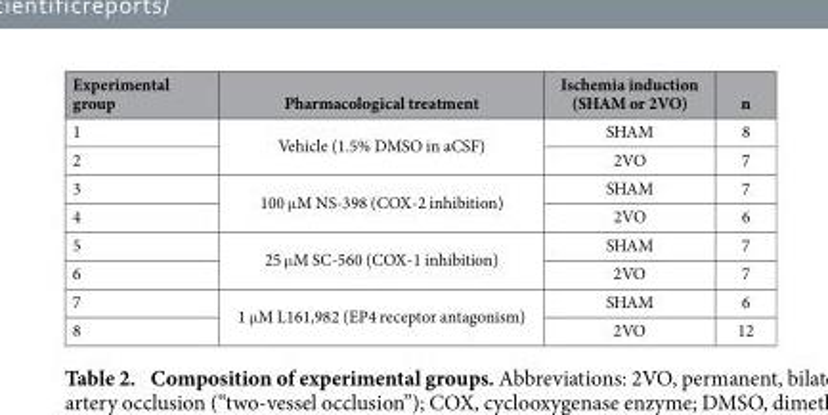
<table><thead><tr><td>Experimental group</td><td>Pharmacological treatment</td><td>Ischemia induction (SHAM or 2VO)</td><td>n</td></tr></thead><tbody><tr><td>1</td><td rowspan="2">Vehicle (1.5% DMSO in aCSF)</td><td>SHAM</td><td>8</td></tr><tr><td>2</td><td>2VO</td><td>7</td></tr><tr><td>3</td><td rowspan="2">100 μ M NS-398 (COX-2 inhibition)</td><td>SHAM</td><td>7</td></tr><tr><td>4</td><td>2VO</td><td>6</td></tr><tr><td>5</td><td rowspan="2">25 μ M SC-560 (COX-1 inhibition)</td><td>SHAM</td><td>7</td></tr><tr><td>6</td><td>2VO</td><td>7</td></tr><tr><td>7</td><td rowspan="2">1 μ M L161,982 (EP4 receptor antagonism)</td><td>SHAM</td><td>6</td></tr><tr><td>8</td><td>2VO</td><td>12</td></tr></tbody></table>